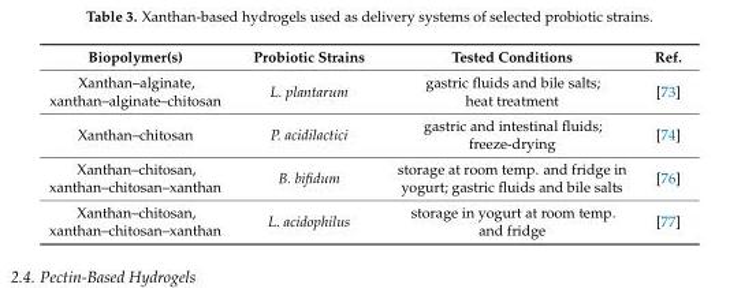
<table><thead><tr><td>Biopolymer(s)</td><td>Probiotic Strains</td><td>Tested Conditions</td><td>Ref.</td></tr></thead><tbody><tr><td>Xanthan–alginate, xanthan–alginate–chitosan</td><td>L. plantarum</td><td>gastric fluids and bile salts; heat treatment</td><td>[73]</td></tr><tr><td>Xanthan–chitosan</td><td>P. acidilactici</td><td>gastric and intestinal fluids; freeze-drying</td><td>[74]</td></tr><tr><td>Xanthan–chitosan, xanthan–chitosan–xanthan</td><td>B. bifidum</td><td>storage at room temp. and fridge in yogurt; gastric fluids and bile salts</td><td>[76]</td></tr><tr><td>Xanthan–chitosan, xanthan–chitosan–xanthan</td><td>L. acidophilus</td><td>storage in yogurt at room temp. and fridge</td><td>[77]</td></tr></tbody></table>